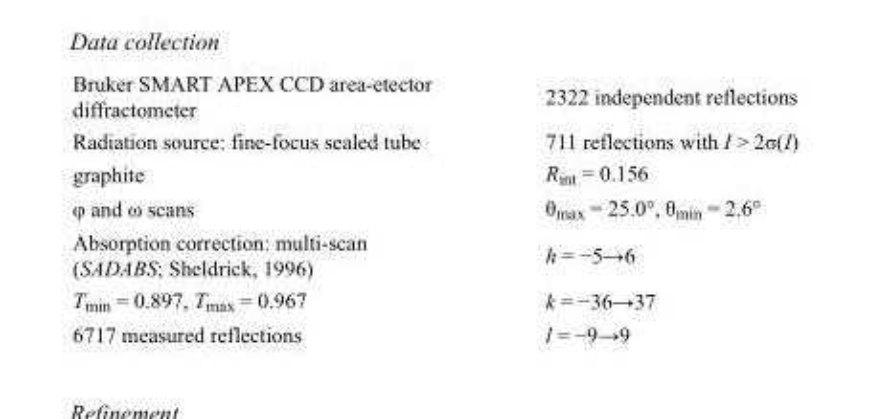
<table><tbody><tr><td>Bruker SMART APEX CCD area-etector diffractometer</td><td>2322 independent reflections</td></tr><tr><td>Radiation source: fine-focus sealed tube</td><td>711 reflections with I &gt; 2σ(I)</td></tr><tr><td>graphite</td><td>R<sub>int</sub> = 0.156</td></tr><tr><td>φ and ω scans</td><td>θ<sub>max</sub> = 25.0°, θ<sub>min</sub> = 2.6°</td></tr><tr><td>Absorption correction: multi-scan (SADABS; Sheldrick, 1996)</td><td>h = −5→6</td></tr><tr><td>T<sub>min</sub> = 0.897, T<sub>max</sub> = 0.967</td><td>k = −36→37</td></tr><tr><td>6717 measured reflections</td><td>l = −9→9</td></tr></tbody></table>